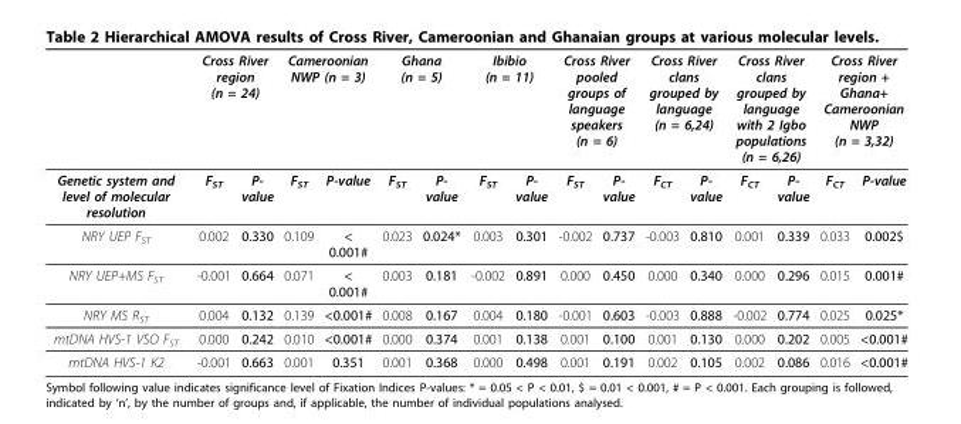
<table><thead><tr><td rowspan="2">Genetic system and level of molecular resolution</td><td colspan="2">Cross River region (n = 24)</td><td colspan="2">Cameroonian NWP (n = 3)</td><td colspan="2">Ghana (n = 5)</td><td colspan="2">Ibibio (n = 11)</td><td colspan="2">Cross River pooled groups of language speakers (n = 6)</td><td colspan="2">Cross River clans grouped by language (n = 6,24)</td><td colspan="2">Cross River clans grouped by language with 2 Igbo populations (n = 6,26)</td><td colspan="2">Cross River region + Ghana+ Cameroonian NWP (n = 3,32)</td></tr><tr><td>F<sub>ST</sub></td><td>P- value</td><td>F<sub>ST</sub></td><td>P-value</td><td>F<sub>ST</sub></td><td>P- value</td><td>F<sub>ST</sub></td><td>P- value</td><td>F<sub>ST</sub></td><td>P- value</td><td>F<sub>CT</sub></td><td>P- value</td><td>F<sub>CT</sub></td><td>P- value</td><td>F<sub>CT</sub></td><td>P-value</td></tr></thead><tbody><tr><td>NRY UEP F<sub>ST</sub></td><td>0.002</td><td>0.330</td><td>0.109</td><td>&lt; 0.001#</td><td>0.023</td><td>0.024*</td><td>0.003</td><td>0.301</td><td>-0.002</td><td>0.737</td><td>-0.003</td><td>0.810</td><td>0.001</td><td>0.339</td><td>0.033</td><td>0.002$</td></tr><tr><td>NRY UEP+MS F<sub>ST</sub></td><td>-0.001</td><td>0.664</td><td>0.071</td><td>&lt; 0.001#</td><td>0.003</td><td>0.181</td><td>-0.002</td><td>0.891</td><td>0.000</td><td>0.450</td><td>0.000</td><td>0.340</td><td>0.000</td><td>0.296</td><td>0.015</td><td>0.001#</td></tr><tr><td>NRY MS R<sub>ST</sub></td><td>0.004</td><td>0.132</td><td>0.139</td><td>&lt;0.001#</td><td>0.008</td><td>0.167</td><td>0.004</td><td>0.180</td><td>-0.001</td><td>0.603</td><td>-0.003</td><td>0.888</td><td>-0.002</td><td>0.774</td><td>0.025</td><td>0.025*</td></tr><tr><td>mtDNA HVS-1 VSO F<sub>ST</sub></td><td>0.000</td><td>0.242</td><td>0.010</td><td>&lt;0.001#</td><td>0.000</td><td>0.374</td><td>0.001</td><td>0.138</td><td>0.001</td><td>0.100</td><td>0.001</td><td>0.130</td><td>0.000</td><td>0.202</td><td>0.005</td><td>&lt;0.001#</td></tr><tr><td>mtDNA HVS-1 K2</td><td>-0.001</td><td>0.663</td><td>0.001</td><td>0.351</td><td>0.001</td><td>0.368</td><td>0.000</td><td>0.498</td><td>0.001</td><td>0.191</td><td>0.002</td><td>0.105</td><td>0.002</td><td>0.086</td><td>0.016</td><td>&lt;0.001#</td></tr></tbody></table>